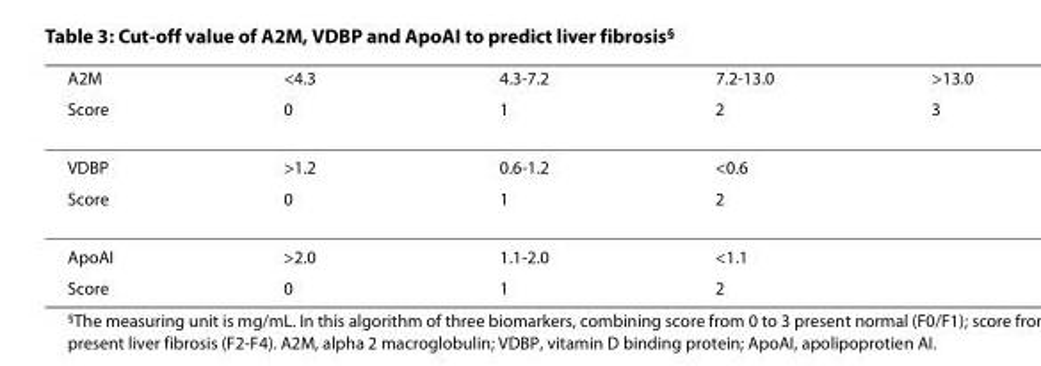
<table><thead><tr><td rowspan="2">A2M Score</td><td rowspan="2">&lt;4.3 0</td><td rowspan="2">4.3-7.2 1</td><td rowspan="2">7.2-13.0 2</td><td rowspan="2">&gt;13.0 3</td></tr><tr></tr></thead><tbody><tr><td>VDBP</td><td>&gt;1.2</td><td>0.6-1.2</td><td>&lt;0.6</td><td></td></tr><tr><td>Score</td><td>0</td><td>1</td><td>2</td><td></td></tr><tr><td>ApoAI</td><td>&gt;2.0</td><td>1.1-2.0</td><td>&lt;1.1</td><td></td></tr><tr><td>Score</td><td>0</td><td>1</td><td>2</td><td></td></tr></tbody></table>